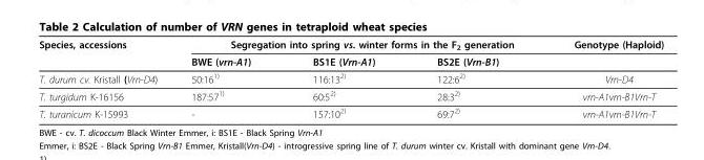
<table><thead><tr><td rowspan="2">Species, accessions</td><td colspan="3">Segregation into spring vs. winter forms in the F<sub>2</sub> generation</td><td rowspan="2">Genotype (Haploid)</td></tr><tr><td>BWE (vrn-A1)</td><td>BS1E (Vrn-A1)</td><td>BS2E (Vrn-B1)</td></tr></thead><tbody><tr><td>T. durum cv. Kristall (Vrn-D4)</td><td>50:16<sup>1)</sup></td><td>116:13<sup>2)</sup></td><td>122:6<sup>2)</sup></td><td>Vrn-D4</td></tr><tr><td>T. turgidum K-16156</td><td>187:57<sup>1)</sup></td><td>60:5<sup>2)</sup></td><td>28:3<sup>2)</sup></td><td>vrn-A1vrn-B1Vrn-Т</td></tr><tr><td>T. turanicum K-15993</td><td>-</td><td>157:10<sup>2)</sup></td><td>69:7<sup>2)</sup></td><td>vrn-A1vrn-B1Vrn-T</td></tr></tbody></table>